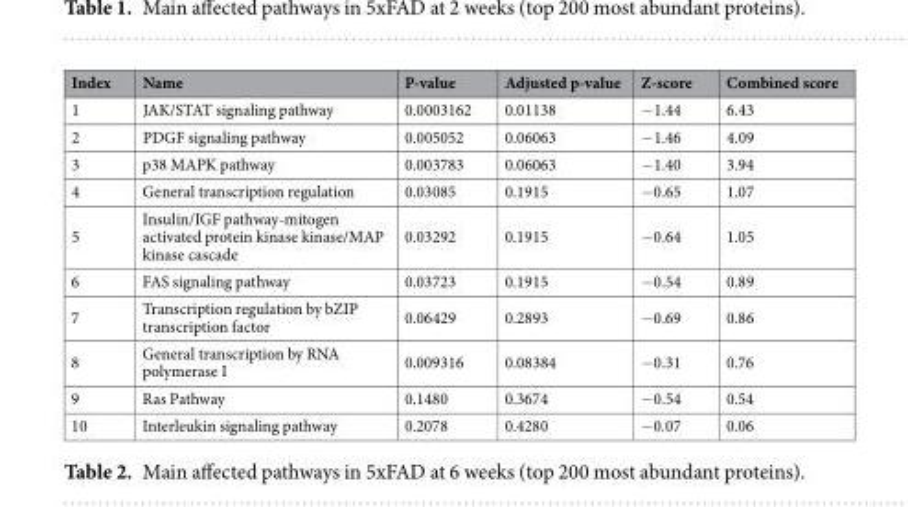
<table><thead><tr><td>Index</td><td>Name</td><td>P-value</td><td>Adjusted p-value</td><td>Z-score</td><td>Combined score</td></tr></thead><tbody><tr><td>1</td><td>JAK/STAT signaling pathway</td><td>0.0003162</td><td>0.01138</td><td>−1.44</td><td>6.43</td></tr><tr><td>2</td><td>PDGF signaling pathway</td><td>0.005052</td><td>0.06063</td><td>−1.46</td><td>4.09</td></tr><tr><td>3</td><td>p38 MAPK pathway</td><td>0.003783</td><td>0.06063</td><td>−1.40</td><td>3.94</td></tr><tr><td>4</td><td>General transcription regulation</td><td>0.03085</td><td>0.1915</td><td>−0.65</td><td>1.07</td></tr><tr><td>5</td><td>Insulin/IGF pathway-mitogen activated protein kinase kinase/MAP kinase cascade</td><td>0.03292</td><td>0.1915</td><td>−0.64</td><td>1.05</td></tr><tr><td>6</td><td>FAS signaling pathway</td><td>0.03723</td><td>0.1915</td><td>−0.54</td><td>0.89</td></tr><tr><td>7</td><td>Transcription regulation by bZIP transcription factor</td><td>0.06429</td><td>0.2893</td><td>−0.69</td><td>0.86</td></tr><tr><td>8</td><td>General transcription by RNA polymerase I</td><td>0.009316</td><td>0.08384</td><td>−0.31</td><td>0.76</td></tr><tr><td>9</td><td>Ras Pathway</td><td>0.1480</td><td>0.3674</td><td>−0.54</td><td>0.54</td></tr><tr><td>10</td><td>Interleukin signaling pathway</td><td>0.2078</td><td>0.4280</td><td>−0.07</td><td>0.06</td></tr></tbody></table>